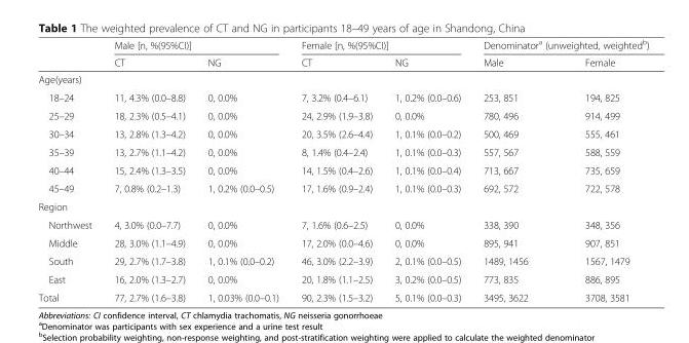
<table><thead><tr><td rowspan="2"></td><td colspan="2">Male [n, %(95%CI)]</td><td colspan="2">Female [n, %(95%CI)]</td><td colspan="2">Denominator<sup>a</sup> (unweighted, weighted<sup>b</sup>)</td></tr><tr><td>CT</td><td>NG</td><td>CT</td><td>NG</td><td>Male</td><td>Female</td></tr></thead><tbody><tr><td colspan="7">Age(years)</td></tr><tr><td>18–24</td><td>11, 4.3% (0.0–8.8)</td><td>0, 0.0%</td><td>7, 3.2% (0.4–6.1)</td><td>1, 0.2% (0.0–0.6)</td><td>253, 851</td><td>194, 825</td></tr><tr><td>25–29</td><td>18, 2.3% (0.5–4.1)</td><td>0, 0.0%</td><td>24, 2.9% (1.9–3.8)</td><td>0, 0.0%</td><td>780, 496</td><td>914, 499</td></tr><tr><td>30–34</td><td>13, 2.8% (1.3–4.2)</td><td>0, 0.0%</td><td>20, 3.5% (2.6–4.4)</td><td>1, 0.1% (0.0–0.2)</td><td>500, 469</td><td>555, 461</td></tr><tr><td>35–39</td><td>13, 2.7% (1.1–4.2)</td><td>0, 0.0%</td><td>8, 1.4% (0.4–2.4)</td><td>1, 0.1% (0.0–0.3)</td><td>557, 567</td><td>588, 559</td></tr><tr><td>40–44</td><td>15, 2.4% (1.3–3.5)</td><td>0, 0.0%</td><td>14, 1.5% (0.4–2.6)</td><td>1, 0.1% (0.0–0.4)</td><td>713, 667</td><td>735, 659</td></tr><tr><td>45–49</td><td>7, 0.8% (0.2–1.3)</td><td>1, 0.2% (0.0–0.5)</td><td>17, 1.6% (0.9–2.4)</td><td>1, 0.1% (0.0–0.3)</td><td>692, 572</td><td>722, 578</td></tr><tr><td colspan="7">Region</td></tr><tr><td>Northwest</td><td>4, 3.0% (0.0–7.7)</td><td>0, 0.0%</td><td>7, 1.6% (0.6–2.5)</td><td>0, 0.0%</td><td>338, 390</td><td>348, 356</td></tr><tr><td>Middle</td><td>28, 3.0% (1.1–4.9)</td><td>0, 0.0%</td><td>17, 2.0% (0.0–4.6)</td><td>0, 0.0%</td><td>895, 941</td><td>907, 851</td></tr><tr><td>South</td><td>29, 2.7% (1.7–3.8)</td><td>1, 0.1% (0.0–0.2)</td><td>46, 3.0% (2.2–3.9)</td><td>2, 0.1% (0.0–0.5)</td><td>1489, 1456</td><td>1567, 1479</td></tr><tr><td>East</td><td>16, 2.0% (1.3–2.7)</td><td>0, 0.0%</td><td>20, 1.8% (1.1–2.5)</td><td>3, 0.2% (0.0–0.5)</td><td>773, 835</td><td>886, 895</td></tr><tr><td>Total</td><td>77, 2.7% (1.6–3.8)</td><td>1, 0.03% (0.0–0.1)</td><td>90, 2.3% (1.5–3.2)</td><td>5, 0.1% (0.0–0.3)</td><td>3495, 3622</td><td>3708, 3581</td></tr></tbody></table>